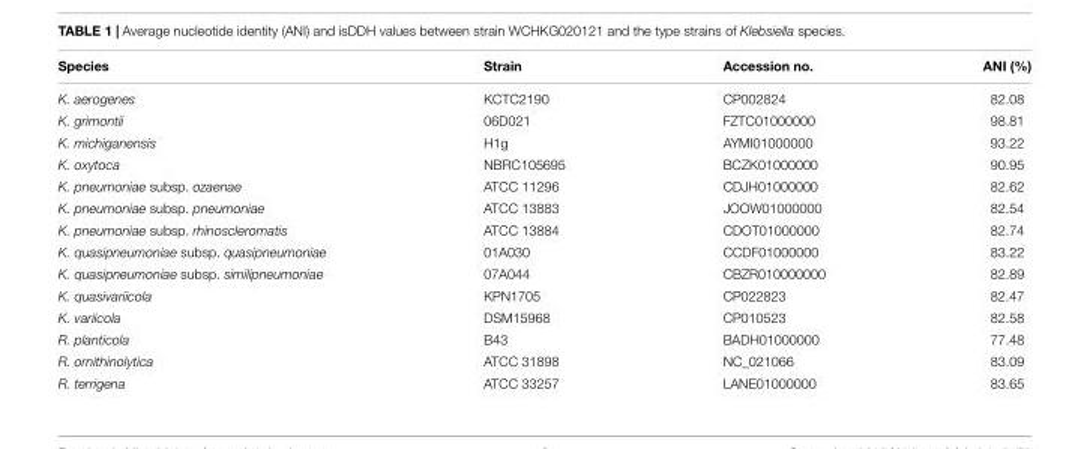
<table><thead><tr><td>Species</td><td>Strain</td><td>Accession no.</td><td>ANI (%)</td></tr></thead><tbody><tr><td>K. aerogenes</td><td>KCTC2190</td><td>CP002824</td><td>82.08</td></tr><tr><td>K. grimontii</td><td>06D021</td><td>FZTC01000000</td><td>98.81</td></tr><tr><td>K. michiganensis</td><td>H1g</td><td>AYMI01000000</td><td>93.22</td></tr><tr><td>K. oxytoca</td><td>NBRC105695</td><td>BCZK01000000</td><td>90.95</td></tr><tr><td>K. pneumoniae subsp. ozaenae</td><td>ATCC 11296</td><td>CDJH01000000</td><td>82.62</td></tr><tr><td>K. pneumoniae subsp. pneumoniae</td><td>ATCC 13883</td><td>JOOW01000000</td><td>82.54</td></tr><tr><td>K. pneumoniae subsp. rhinoscleromatis</td><td>ATCC 13884</td><td>CDOT01000000</td><td>82.74</td></tr><tr><td>K. quasipneumoniae subsp. quasipneumoniae</td><td>01A030</td><td>CCDF01000000</td><td>83.22</td></tr><tr><td>K. quasipneumoniae subsp. similipneumoniae</td><td>07A044</td><td>CBZR010000000</td><td>82.89</td></tr><tr><td>K. quasivariicola</td><td>KPN1705</td><td>CP022823</td><td>82.47</td></tr><tr><td>K. variicola</td><td>DSM15968</td><td>CP010523</td><td>82.58</td></tr><tr><td>R. planticola</td><td>B43</td><td>BADH01000000</td><td>77.48</td></tr><tr><td>R. ornithinolytica</td><td>ATCC 31898</td><td>NC_021066</td><td>83.09</td></tr><tr><td>R. terrigena</td><td>ATCC 33257</td><td>LANE01000000</td><td>83.65</td></tr></tbody></table>